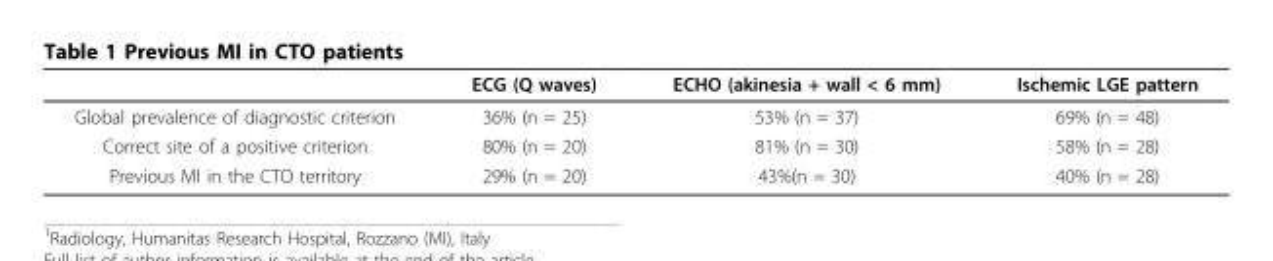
<table><thead><tr><td></td><td>ECG (Q waves)</td><td>ECHO (akinesia + wall &lt; 6 mm)</td><td>Ischemic LGE pattern</td></tr></thead><tbody><tr><td>Global prevalence of diagnostic criterion</td><td>36% (n = 25)</td><td>53% (n = 37)</td><td>69% (n = 48)</td></tr><tr><td>Correct site of a positive criterion</td><td>80% (n = 20)</td><td>81% (n = 30)</td><td>58% (n = 28)</td></tr><tr><td>Previous MI in the CTO territory</td><td>29% (n = 20)</td><td>43%(n = 30)</td><td>40% (n = 28)</td></tr></tbody></table>